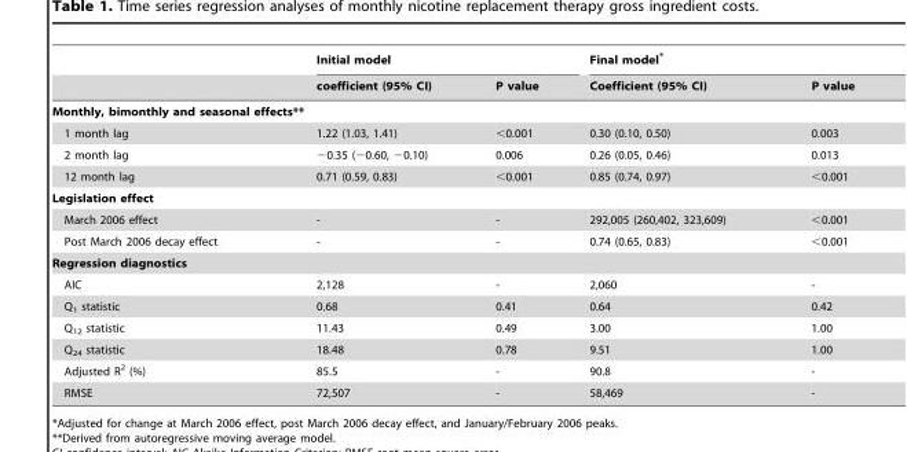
<table><thead><tr><td rowspan="2"></td><td colspan="2">Initial model</td><td colspan="2">Final model*</td></tr><tr><td>coefficient (95% CI)</td><td>P value</td><td>Coefficient (95% CI)</td><td>P value</td></tr></thead><tbody><tr><td colspan="5">Monthly, bimonthly and seasonal effects**</td></tr><tr><td>1 month lag</td><td>1.22 (1.03, 1.41)</td><td>&lt;0.001</td><td>0.30 (0.10, 0.50)</td><td>0.003</td></tr><tr><td>2 month lag</td><td>−0.35 (−0.60, −0.10)</td><td>0.006</td><td>0.26 (0.05, 0.46)</td><td>0.013</td></tr><tr><td>12 month lag</td><td>0.71 (0.59, 0.83)</td><td>&lt;0.001</td><td>0.85 (0.74, 0.97)</td><td>&lt;0.001</td></tr><tr><td colspan="5">Legislation effect</td></tr><tr><td>March 2006 effect</td><td>-</td><td>-</td><td>292,005 (260,402, 323,609)</td><td>&lt;0.001</td></tr><tr><td>Post March 2006 decay effect</td><td>-</td><td>-</td><td>0.74 (0.65, 0.83)</td><td>&lt;0.001</td></tr><tr><td colspan="5">Regression diagnostics</td></tr><tr><td>AIC</td><td>2,128</td><td>-</td><td>2,060</td><td>-</td></tr><tr><td>Q<sub>1</sub> statistic</td><td>0.68</td><td>0.41</td><td>0.64</td><td>0.42</td></tr><tr><td>Q<sub>12</sub> statistic</td><td>11.43</td><td>0.49</td><td>3.00</td><td>1.00</td></tr><tr><td>Q<sub>24</sub> statistic</td><td>18.48</td><td>0.78</td><td>9.51</td><td>1.00</td></tr><tr><td>Adjusted R<sup>2</sup> (%)</td><td>85.5</td><td>-</td><td>90.8</td><td>-</td></tr><tr><td>RMSE</td><td>72,507</td><td>-</td><td>58,469</td><td>-</td></tr></tbody></table>